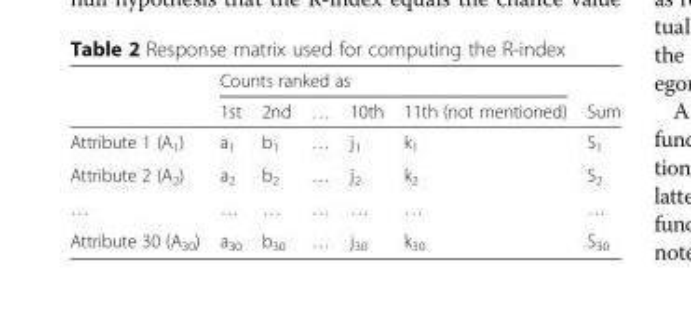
<table><thead><tr><td rowspan="2"></td><td colspan="5">Counts ranked as</td><td rowspan="2">Sum</td></tr><tr><td>1st</td><td>2nd</td><td>…</td><td>10th</td><td>11th (not mentioned)</td></tr></thead><tbody><tr><td>Attribute 1 (A<sub>1</sub>)</td><td>a<sub>1</sub></td><td>b<sub>1</sub></td><td>…</td><td>j<sub>1</sub></td><td>k<sub>1</sub></td><td>S<sub>1</sub></td></tr><tr><td>Attribute 2 (A<sub>2</sub>)</td><td>a<sub>2</sub></td><td>b<sub>2</sub></td><td>…</td><td>j<sub>2</sub></td><td>k<sub>2</sub></td><td>S<sub>2</sub></td></tr><tr><td>…</td><td>…</td><td>…</td><td>…</td><td>…</td><td>…</td><td>…</td></tr><tr><td>Attribute 30 (A<sub>30</sub>)</td><td>a<sub>30</sub></td><td>b<sub>30</sub></td><td>…</td><td>j<sub>30</sub></td><td>k<sub>30</sub></td><td>S<sub>30</sub></td></tr></tbody></table>